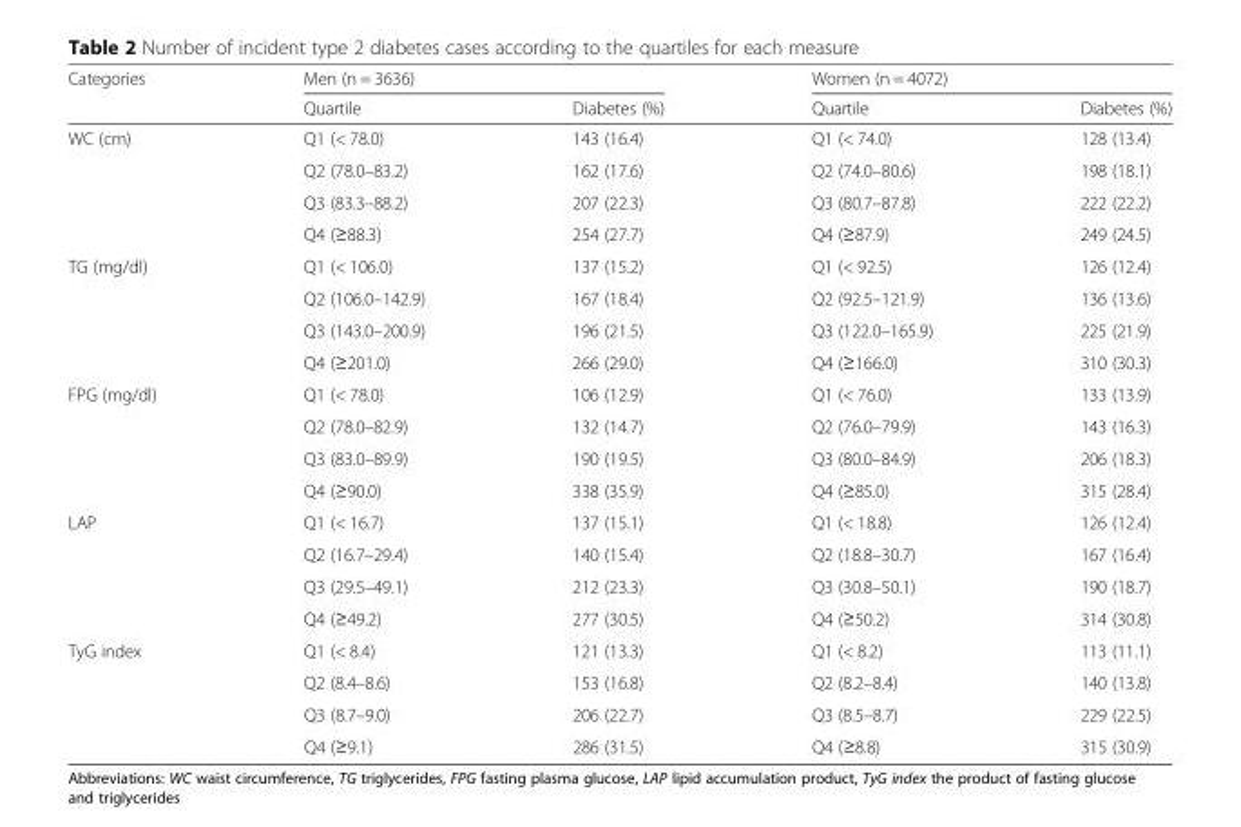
<table><thead><tr><td rowspan="2">Categories</td><td colspan="2">Men (n = 3636)</td><td colspan="2">Women (n = 4072)</td></tr><tr><td>Quartile</td><td>Diabetes (%)</td><td>Quartile</td><td>Diabetes (%)</td></tr></thead><tbody><tr><td rowspan="4">WC (cm)</td><td>Q1 (&lt; 78.0)</td><td>143 (16.4)</td><td>Q1 (&lt; 74.0)</td><td>128 (13.4)</td></tr><tr><td>Q2 (78.0–83.2)</td><td>162 (17.6)</td><td>Q2 (74.0–80.6)</td><td>198 (18.1)</td></tr><tr><td>Q3 (83.3–88.2)</td><td>207 (22.3)</td><td>Q3 (80.7–87.8)</td><td>222 (22.2)</td></tr><tr><td>Q4 (≥88.3)</td><td>254 (27.7)</td><td>Q4 (≥87.9)</td><td>249 (24.5)</td></tr><tr><td rowspan="4">TG (mg/dl)</td><td>Q1 (&lt; 106.0)</td><td>137 (15.2)</td><td>Q1 (&lt; 92.5)</td><td>126 (12.4)</td></tr><tr><td>Q2 (106.0–142.9)</td><td>167 (18.4)</td><td>Q2 (92.5–121.9)</td><td>136 (13.6)</td></tr><tr><td>Q3 (143.0–200.9)</td><td>196 (21.5)</td><td>Q3 (122.0–165.9)</td><td>225 (21.9)</td></tr><tr><td>Q4 (≥201.0)</td><td>266 (29.0)</td><td>Q4 (≥166.0)</td><td>310 (30.3)</td></tr><tr><td rowspan="4">FPG (mg/dl)</td><td>Q1 (&lt; 78.0)</td><td>106 (12.9)</td><td>Q1 (&lt; 76.0)</td><td>133 (13.9)</td></tr><tr><td>Q2 (78.0–82.9)</td><td>132 (14.7)</td><td>Q2 (76.0–79.9)</td><td>143 (16.3)</td></tr><tr><td>Q3 (83.0–89.9)</td><td>190 (19.5)</td><td>Q3 (80.0–84.9)</td><td>206 (18.3)</td></tr><tr><td>Q4 (≥90.0)</td><td>338 (35.9)</td><td>Q4 (≥85.0)</td><td>315 (28.4)</td></tr><tr><td rowspan="4">LAP</td><td>Q1 (&lt; 16.7)</td><td>137 (15.1)</td><td>Q1 (&lt; 18.8)</td><td>126 (12.4)</td></tr><tr><td>Q2 (16.7–29.4)</td><td>140 (15.4)</td><td>Q2 (18.8–30.7)</td><td>167 (16.4)</td></tr><tr><td>Q3 (29.5–49.1)</td><td>212 (23.3)</td><td>Q3 (30.8–50.1)</td><td>190 (18.7)</td></tr><tr><td>Q4 (≥49.2)</td><td>277 (30.5)</td><td>Q4 (≥50.2)</td><td>314 (30.8)</td></tr><tr><td rowspan="4">TyG index</td><td>Q1 (&lt; 8.4)</td><td>121 (13.3)</td><td>Q1 (&lt; 8.2)</td><td>113 (11.1)</td></tr><tr><td>Q2 (8.4–8.6)</td><td>153 (16.8)</td><td>Q2 (8.2–8.4)</td><td>140 (13.8)</td></tr><tr><td>Q3 (8.7–9.0)</td><td>206 (22.7)</td><td>Q3 (8.5–8.7)</td><td>229 (22.5)</td></tr><tr><td>Q4 (≥9.1)</td><td>286 (31.5)</td><td>Q4 (≥8.8)</td><td>315 (30.9)</td></tr></tbody></table>